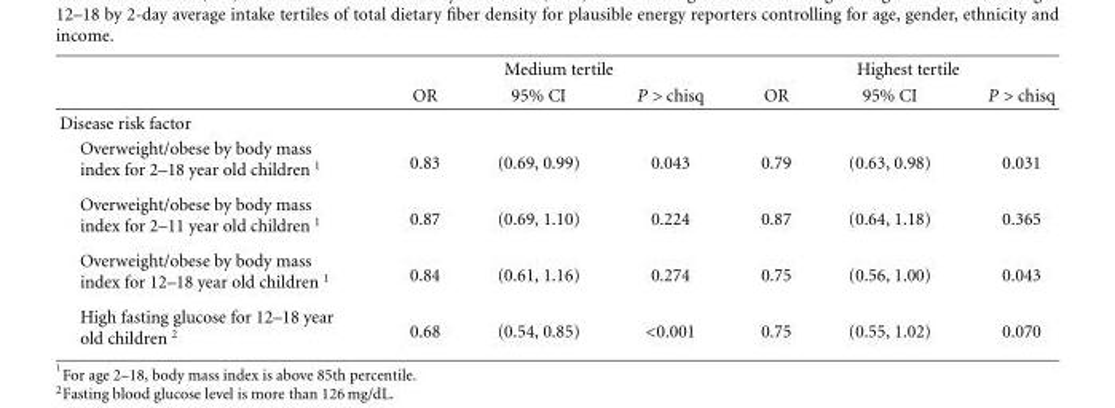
<table><thead><tr><td rowspan="2"></td><td colspan="3">Medium tertile</td><td colspan="3">Highest tertile</td></tr><tr><td>OR</td><td>95% CI</td><td>P &gt; chisq</td><td>OR</td><td>95% CI</td><td>P &gt; chisq</td></tr></thead><tbody><tr><td colspan="7">Disease risk factor</td></tr><tr><td>Overweight/obese by body mass index for 2–18 year old children <sup>1</sup></td><td>0.83</td><td>(0.69, 0.99)</td><td>0.043</td><td>0.79</td><td>(0.63, 0.98)</td><td>0.031</td></tr><tr><td>Overweight/obese by body mass index for 2–11 year old children <sup>1</sup></td><td>0.87</td><td>(0.69, 1.10)</td><td>0.224</td><td>0.87</td><td>(0.64, 1.18)</td><td>0.365</td></tr><tr><td>Overweight/obese by body mass index for 12–18 year old children <sup>1</sup></td><td>0.84</td><td>(0.61, 1.16)</td><td>0.274</td><td>0.75</td><td>(0.56, 1.00)</td><td>0.043</td></tr><tr><td>High fasting glucose for 12–18 year old children <sup>2</sup></td><td>0.68</td><td>(0.54, 0.85)</td><td>&lt;0.001</td><td>0.75</td><td>(0.55, 1.02)</td><td>0.070</td></tr></tbody></table>